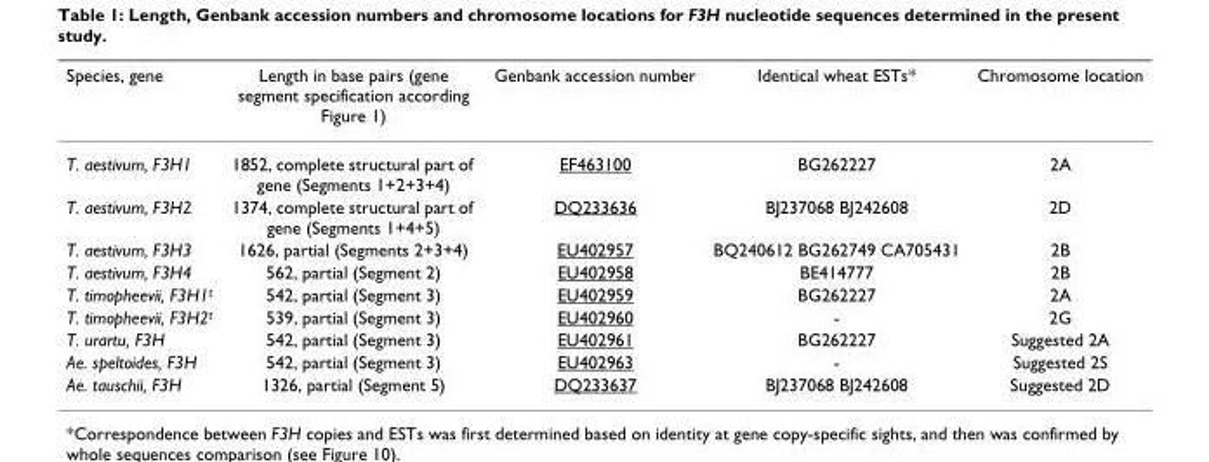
<table><thead><tr><td>Species, gene</td><td>Length in base pairs (gene segment specification according Figure 1)</td><td>Genbank accession number</td><td>Identical wheat ESTs*</td><td>Chromosome location</td></tr></thead><tbody><tr><td>T. aestivum, F3H1</td><td>1852, complete structural part of gene (Segments 1+2+3+4)</td><td>EF463100</td><td>BG262227</td><td>2A</td></tr><tr><td>T. aestivum, F3H2</td><td>1374, complete structural part of gene (Segments 1+4+5)</td><td>DQ233636</td><td>BJ237068 BJ242608</td><td>2D</td></tr><tr><td>T. aestivum, F3H3</td><td>1626, partial (Segments 2+3+4)</td><td>EU402957</td><td>BQ240612 BG262749 CA705431</td><td>2B</td></tr><tr><td>T. aestivum, F3H4</td><td>562, partial (Segment 2)</td><td>EU402958</td><td>BE414777</td><td>2B</td></tr><tr><td>T. timopheevii, F3H1<sup>t</sup></td><td>542, partial (Segment 3)</td><td>EU402959</td><td>BG262227</td><td>2A</td></tr><tr><td>T. timopheevii, F3H2<sup>t</sup></td><td>539, partial (Segment 3)</td><td>EU402960</td><td>-</td><td>2G</td></tr><tr><td>T. urartu, F3H</td><td>542, partial (Segment 3)</td><td>EU402961</td><td>BG262227</td><td>Suggested 2A</td></tr><tr><td>Ae. speltoides, F3H</td><td>542, partial (Segment 3)</td><td>EU402963</td><td>-</td><td>Suggested 2S</td></tr><tr><td>Ae. tauschii, F3H</td><td>1326, partial (Segment 5)</td><td>DQ233637</td><td>BJ237068 BJ242608</td><td>Suggested 2D</td></tr></tbody></table>